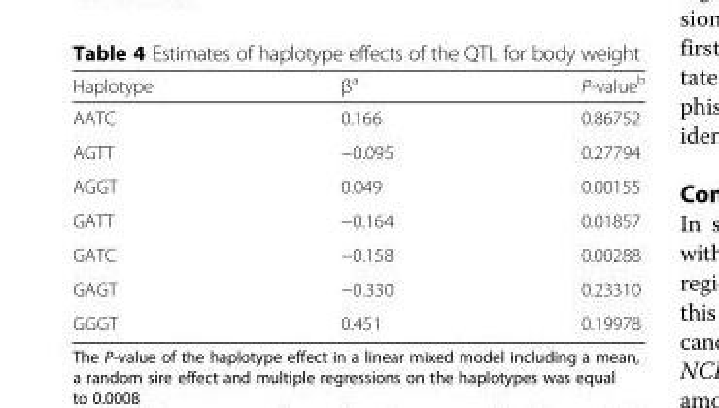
<table><thead><tr><td>Haplotype</td><td>β<sup>a</sup></td><td>P-value<sup>b</sup></td></tr></thead><tbody><tr><td>AATC</td><td>0.166</td><td>0.86752</td></tr><tr><td>AGTT</td><td>−0.095</td><td>0.27794</td></tr><tr><td>AGGT</td><td>0.049</td><td>0.00155</td></tr><tr><td>GATT</td><td>−0.164</td><td>0.01857</td></tr><tr><td>GATC</td><td>−0.158</td><td>0.00288</td></tr><tr><td>GAGT</td><td>−0.330</td><td>0.23310</td></tr><tr><td>GGGT</td><td>0.451</td><td>0.19978</td></tr></tbody></table>